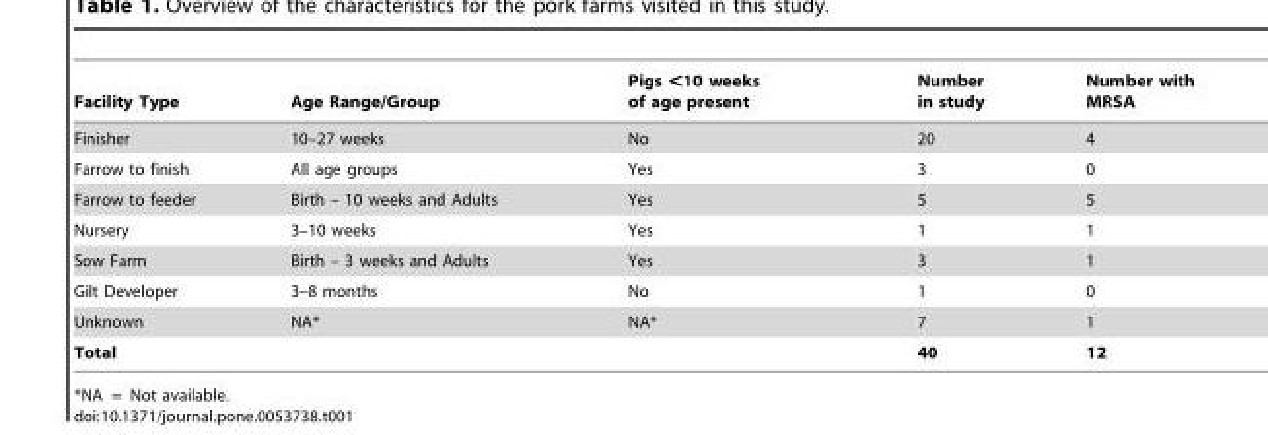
<table><thead><tr><td>Facility Type</td><td>Age Range/Group</td><td>Pigs &lt;10 weeks of age present</td><td>Number in study</td><td>Number with MRSA</td></tr></thead><tbody><tr><td>Finisher</td><td>10–27 weeks</td><td>No</td><td>20</td><td>4</td></tr><tr><td>Farrow to finish</td><td>All age groups</td><td>Yes</td><td>3</td><td>0</td></tr><tr><td>Farrow to feeder</td><td>Birth – 10 weeks and Adults</td><td>Yes</td><td>5</td><td>5</td></tr><tr><td>Nursery</td><td>3–10 weeks</td><td>Yes</td><td>1</td><td>1</td></tr><tr><td>Sow Farm</td><td>Birth – 3 weeks and Adults</td><td>Yes</td><td>3</td><td>1</td></tr><tr><td>Gilt Developer</td><td>3–8 months</td><td>No</td><td>1</td><td>0</td></tr><tr><td>Unknown</td><td>NA*</td><td>NA*</td><td>7</td><td>1</td></tr><tr><td>Total</td><td></td><td></td><td>40</td><td>12</td></tr></tbody></table>